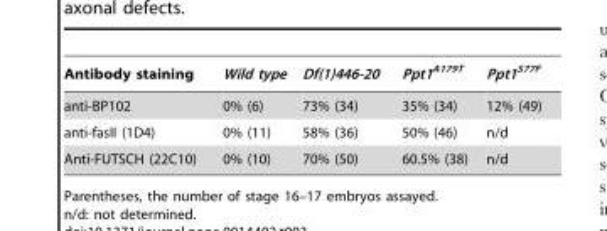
<table><thead><tr><td>Antibody staining</td><td>Wild type</td><td>Df(1)446-20</td><td>Ppt1<sup>A179T</sup></td><td>Ppt1<sup>S77F</sup></td></tr></thead><tbody><tr><td>anti-BP102</td><td>0% (6)</td><td>73% (34)</td><td>35% (34)</td><td>12% (49)</td></tr><tr><td>anti-fasII (1D4)</td><td>0% (11)</td><td>58% (36)</td><td>50% (46)</td><td>n/d</td></tr><tr><td>Anti-FUTSCH (22C10)</td><td>0% (10)</td><td>70% (50)</td><td>60.5% (38)</td><td>n/d</td></tr></tbody></table>